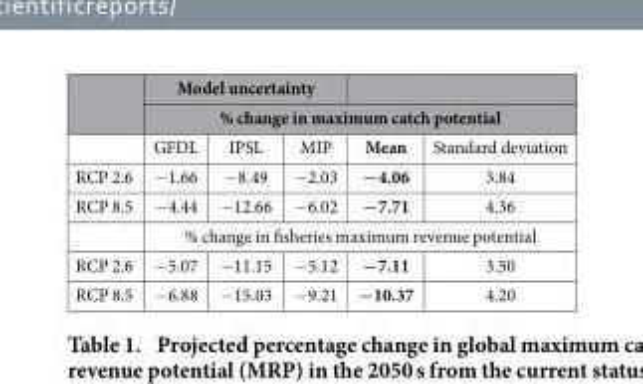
<table><thead><tr><td rowspan="3"></td><td colspan="3">Model uncertainty</td><td></td><td></td></tr><tr><td colspan="5">% change in maximum catch potential</td></tr><tr><td>GFDL</td><td>IPSL</td><td>MIP</td><td>Mean</td><td>Standard deviation</td></tr></thead><tbody><tr><td>RCP 2.6</td><td>− 1.66</td><td>− 8.49</td><td>− 2.03</td><td>−4.06</td><td>3.84</td></tr><tr><td rowspan="2">RCP 8.5</td><td>− 4.44</td><td>− 12.66</td><td>− 6.02</td><td>−7.71</td><td>4.36</td></tr><tr><td colspan="5">% change in fisheries maximum revenue potential</td></tr><tr><td>RCP 2.6</td><td>− 5.07</td><td>− 11.15</td><td>− 5.12</td><td>−7.11</td><td>3.50</td></tr><tr><td>RCP 8.5</td><td>− 6.88</td><td>− 15.03</td><td>− 9.21</td><td>−10.37</td><td>4.20</td></tr></tbody></table>